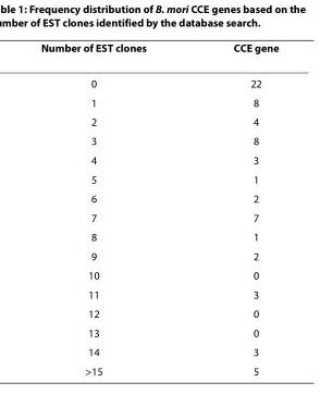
<table><thead><tr><td>Number of EST clones</td><td>CCE gene</td></tr></thead><tbody><tr><td>0</td><td>22</td></tr><tr><td>1</td><td>8</td></tr><tr><td>2</td><td>4</td></tr><tr><td>3</td><td>8</td></tr><tr><td>4</td><td>3</td></tr><tr><td>5</td><td>1</td></tr><tr><td>6</td><td>2</td></tr><tr><td>7</td><td>7</td></tr><tr><td>8</td><td>1</td></tr><tr><td>9</td><td>2</td></tr><tr><td>10</td><td>0</td></tr><tr><td>11</td><td>3</td></tr><tr><td>12</td><td>0</td></tr><tr><td>13</td><td>0</td></tr><tr><td>14</td><td>3</td></tr><tr><td>&gt;15</td><td>5</td></tr></tbody></table>